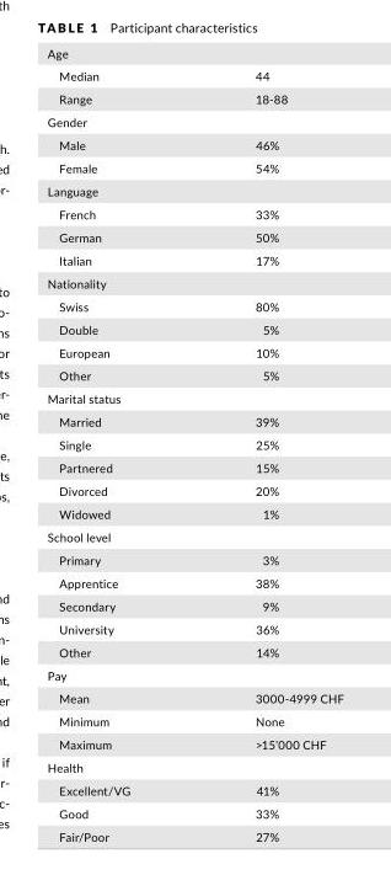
<table><tbody><tr><td colspan="2">Age</td></tr><tr><td>Median</td><td>44</td></tr><tr><td>Range</td><td>18- 88</td></tr><tr><td colspan="2">Gender</td></tr><tr><td>Male</td><td>46%</td></tr><tr><td>Female</td><td>54%</td></tr><tr><td colspan="2">Language</td></tr><tr><td>French</td><td>33%</td></tr><tr><td>German</td><td>50%</td></tr><tr><td>Italian</td><td>17%</td></tr><tr><td colspan="2">Nationality</td></tr><tr><td>Swiss</td><td>80%</td></tr><tr><td>Double</td><td>5%</td></tr><tr><td>European</td><td>10%</td></tr><tr><td>Other</td><td>5%</td></tr><tr><td colspan="2">Marital status</td></tr><tr><td>Married</td><td>39%</td></tr><tr><td>Single</td><td>25%</td></tr><tr><td>Partnered</td><td>15%</td></tr><tr><td>Divorced</td><td>20%</td></tr><tr><td>Widowed</td><td>1%</td></tr><tr><td colspan="2">School level</td></tr><tr><td>Primary</td><td>3%</td></tr><tr><td>Apprentice</td><td>38%</td></tr><tr><td>Secondary</td><td>9%</td></tr><tr><td>University</td><td>36%</td></tr><tr><td>Other</td><td>14%</td></tr><tr><td colspan="2">Pay</td></tr><tr><td>Mean</td><td>3000- 4999 CHF</td></tr><tr><td>Minimum</td><td>None</td></tr><tr><td>Maximum</td><td>&gt;15’000 CHF</td></tr><tr><td colspan="2">Health</td></tr><tr><td>Excellent/VG</td><td>41%</td></tr><tr><td>Good</td><td>33%</td></tr><tr><td>Fair/Poor</td><td>27%</td></tr></tbody></table>